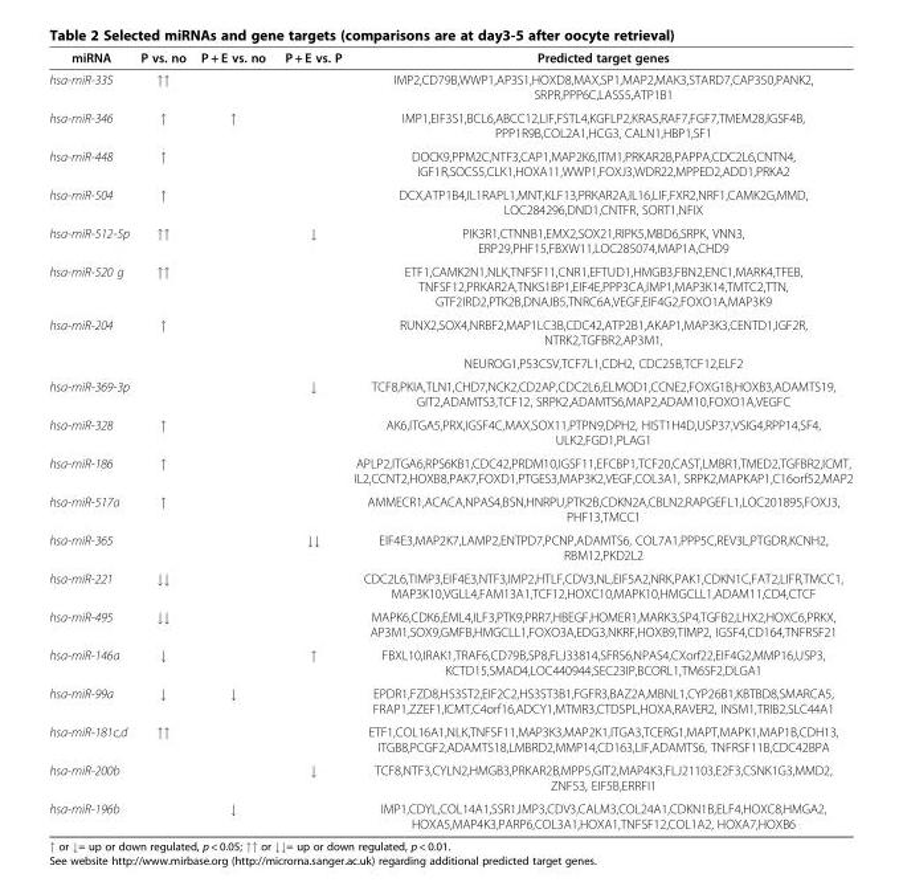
<table><thead><tr><td>miRNA</td><td>P vs. no</td><td>P + E vs. no</td><td>P + E vs. P</td><td>Predicted target genes</td></tr></thead><tbody><tr><td>hsa-miR-335</td><td>↑↑</td><td></td><td></td><td>IMP2,CD79B,WWP1,AP3S1,HOXD8,MAX,SP1,MAP2,MAK3,STARD7,CAP350,PANK2, SRPR,PPP6C,LASS5,ATP1B1</td></tr><tr><td>hsa-miR-346</td><td>↑</td><td>↑</td><td></td><td>IMP1,EIF3S1,BCL6,ABCC12,LIF,FSTL4,KGFLP2,KRAS,RAF7,FGF7,TMEM28,IGSF4B, PPP1R9B,COL2A1,HCG3, CALN1,HBP1,SF1</td></tr><tr><td>hsa-miR-448</td><td>↑</td><td></td><td></td><td>DOCK9,PPM2C,NTF3,CAP1,MAP2K6,ITM1,PRKAR2B,PAPPA,CDC2L6,CNTN4, IGF1R,SOCS5,CLK1,HOXA11,WWP1,FOXJ3,WDR22,MPPED2,ADD1,PRKA2</td></tr><tr><td>hsa-miR-504</td><td>↑</td><td></td><td></td><td>DCX,ATP1B4,IL1RAPL1,MNT,KLF13,PRKAR2A,IL16,LIF,FXR2,NRF1,CAMK2G,MMD, LOC284296,DND1,CNTFR, SORT1,NFIX</td></tr><tr><td>hsa-miR-512-5p</td><td>↑↑</td><td></td><td>↓</td><td>PIK3R1,CTNNB1,EMX2,SOX21,RIPK5,MBD6,SRPK, VNN3, ERP29,PHF15,FBXW11,LOC285074,MAP1A,CHD9</td></tr><tr><td>hsa-miR-520 g</td><td>↑↑</td><td></td><td></td><td>ETF1,CAMK2N1,NLK,TNFSF11,CNR1,EFTUD1,HMGB3,FBN2,ENC1,MARK4,TFEB, TNFSF12,PRKAR2A,TNKS1BP1,EIF4E,PPP3CA,IMP1,MAP3K14,TMTC2,TTN, GTF2IRD2,PTK2B,DNAJB5,TNRC6A,VEGF,EIF4G2,FOXO1A,MAP3K9</td></tr><tr><td rowspan="2">hsa-miR-204</td><td>↑</td><td></td><td></td><td>RUNX2,SOX4,NRBF2,MAP1LC3B,CDC42,ATP2B1,AKAP1,MAP3K3,CENTD1,IGF2R, NTRK2,TGFBR2,AP3M1,</td></tr><tr><td></td><td></td><td></td><td>NEUROG1,P53CSV,TCF7L1,CDH2, CDC25B,TCF12,ELF2</td></tr><tr><td>hsa-miR-369-3p</td><td></td><td></td><td>↓</td><td>TCF8,PKIA,TLN1,CHD7,NCK2,CD2AP,CDC2L6,ELMOD1,CCNE2,FOXG1B,HOXB3,ADAMTS19, GIT2,ADAMTS3,TCF12, SRPK2,ADAMTS6,MAP2,ADAM10,FOXO1A,VEGFC</td></tr><tr><td>hsa-miR-328</td><td>↑</td><td></td><td></td><td>AK6,ITGA5,PRX,IGSF4C,MAX,SOX11,PTPN9,DPH2, HIST1H4D,USP37,VSIG4,RPP14,SF4, ULK2,FGD1,PLAG1</td></tr><tr><td>hsa-miR-186</td><td>↑</td><td></td><td></td><td>APLP2,ITGA6,RPS6KB1,CDC42,PRDM10,IGSF11,EFCBP1,TCF20,CAST,LMBR1,TMED2,TGFBR2,ICMT, IL2,CCNT2,HOXB8,PAK7,FOXD1,PTGES3,MAP3K2,VEGF,COL3A1, SRPK2,MAPKAP1,C16orf52,MAP2</td></tr><tr><td>hsa-miR-517a</td><td>↑</td><td></td><td></td><td>AMMECR1,ACACA,NPAS4,BSN,HNRPU,PTK2B,CDKN2A,CBLN2,RAPGEFL1,LOC201895,FOXJ3, PHF13,TMCC1</td></tr><tr><td>hsa-miR-365</td><td></td><td></td><td>↓↓</td><td>EIF4E3,MAP2K7,LAMP2,ENTPD7,PCNP,ADAMTS6, COL7A1,PPP5C,REV3L,PTGDR,KCNH2, RBM12,PKD2L2</td></tr><tr><td>hsa-miR-221</td><td>↓↓</td><td></td><td></td><td>CDC2L6,TIMP3,EIF4E3,NTF3,IMP2,HTLF,CDV3,NL,EIF5A2,NRK,PAK1,CDKN1C,FAT2,LIFR,TMCC1, MAP3K10,VGLL4,FAM13A1,TCF12,HOXC10,MAPK10,HMGCLL1,ADAM11,CD4,CTCF</td></tr><tr><td>hsa-miR-495</td><td>↓↓</td><td></td><td></td><td>MAPK6,CDK6,EML4,ILF3,PTK9,PRR7,HBEGF,HOMER1,MARK3,SP4,TGFB2,LHX2,HOXC6,PRKX, AP3M1,SOX9,GMFB,HMGCLL1,FOXO3A,EDG3,NKRF,HOXB9,TIMP2, IGSF4,CD164,TNFRSF21</td></tr><tr><td>hsa-miR-146a</td><td>↓</td><td></td><td>↑</td><td>FBXL10,IRAK1,TRAF6,CD79B,SP8,FLJ33814,SFRS6,NPAS4,CXorf22,EIF4G2,MMP16,USP3, KCTD15,SMAD4,LOC440944,SEC23IP,BCORL1,TM6SF2,DLGA1</td></tr><tr><td>hsa-miR-99a</td><td>↓</td><td>↓</td><td></td><td>EPDR1,FZD8,HS3ST2,EIF2C2,HS3ST3B1,FGFR3,BAZ2A,MBNL1,CYP26B1,KBTBD8,SMARCA5, FRAP1,ZZEF1,ICMT,C4orf16,ADCY1,MTMR3,CTDSPL,HOXA,RAVER2, INSM1,TRIB2,SLC44A1</td></tr><tr><td>hsa-miR-181c,d</td><td>↑↑</td><td></td><td></td><td>ETF1,COL16A1,NLK,TNFSF11,MAP3K3,MAP2K1,ITGA3,TCERG1,MAPT,MAPK1,MAP1B,CDH13, ITGB8,PCGF2,ADAMTS18,LMBRD2,MMP14,CD163,LIF,ADAMTS6, TNFRSF11B,CDC42BPA</td></tr><tr><td>hsa-miR-200b</td><td></td><td></td><td>↓</td><td>TCF8,NTF3,CYLN2,HMGB3,PRKAR2B,MPP5,GIT2,MAP4K3,FLJ21103,E2F3,CSNK1G3,MMD2, ZNF53, EIF5B,ERRFI1</td></tr><tr><td>hsa-miR-196b</td><td></td><td>↓</td><td></td><td>IMP1,CDYL,COL14A1,SSR1,IMP3,CDV3,CALM3,COL24A1,CDKN1B,ELF4,HOXC8,HMGA2, HOXA5,MAP4K3,PARP6,COL3A1,HOXA1,TNFSF12,COL1A2, HOXA7,HOXB6</td></tr></tbody></table>